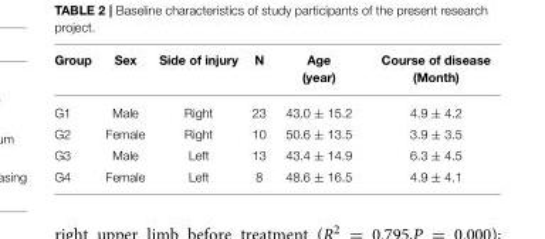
<table><thead><tr><td>Group</td><td>Sex</td><td>Side of injury</td><td>N</td><td>Age (year)</td><td>Course of disease (Month)</td></tr></thead><tbody><tr><td>G1</td><td>Male</td><td>Right</td><td>23</td><td>43.0 ± 15.2</td><td>4.9 ± 4.2</td></tr><tr><td>G2</td><td>Female</td><td>Right</td><td>10</td><td>50.6 ± 13.5</td><td>3.9 ± 3.5</td></tr><tr><td>G3</td><td>Male</td><td>Left</td><td>13</td><td>43.4 ± 14.9</td><td>6.3 ± 4.5</td></tr><tr><td>G4</td><td>Female</td><td>Left</td><td>8</td><td>48.6 ± 16.5</td><td>4.9 ± 4.1</td></tr></tbody></table>